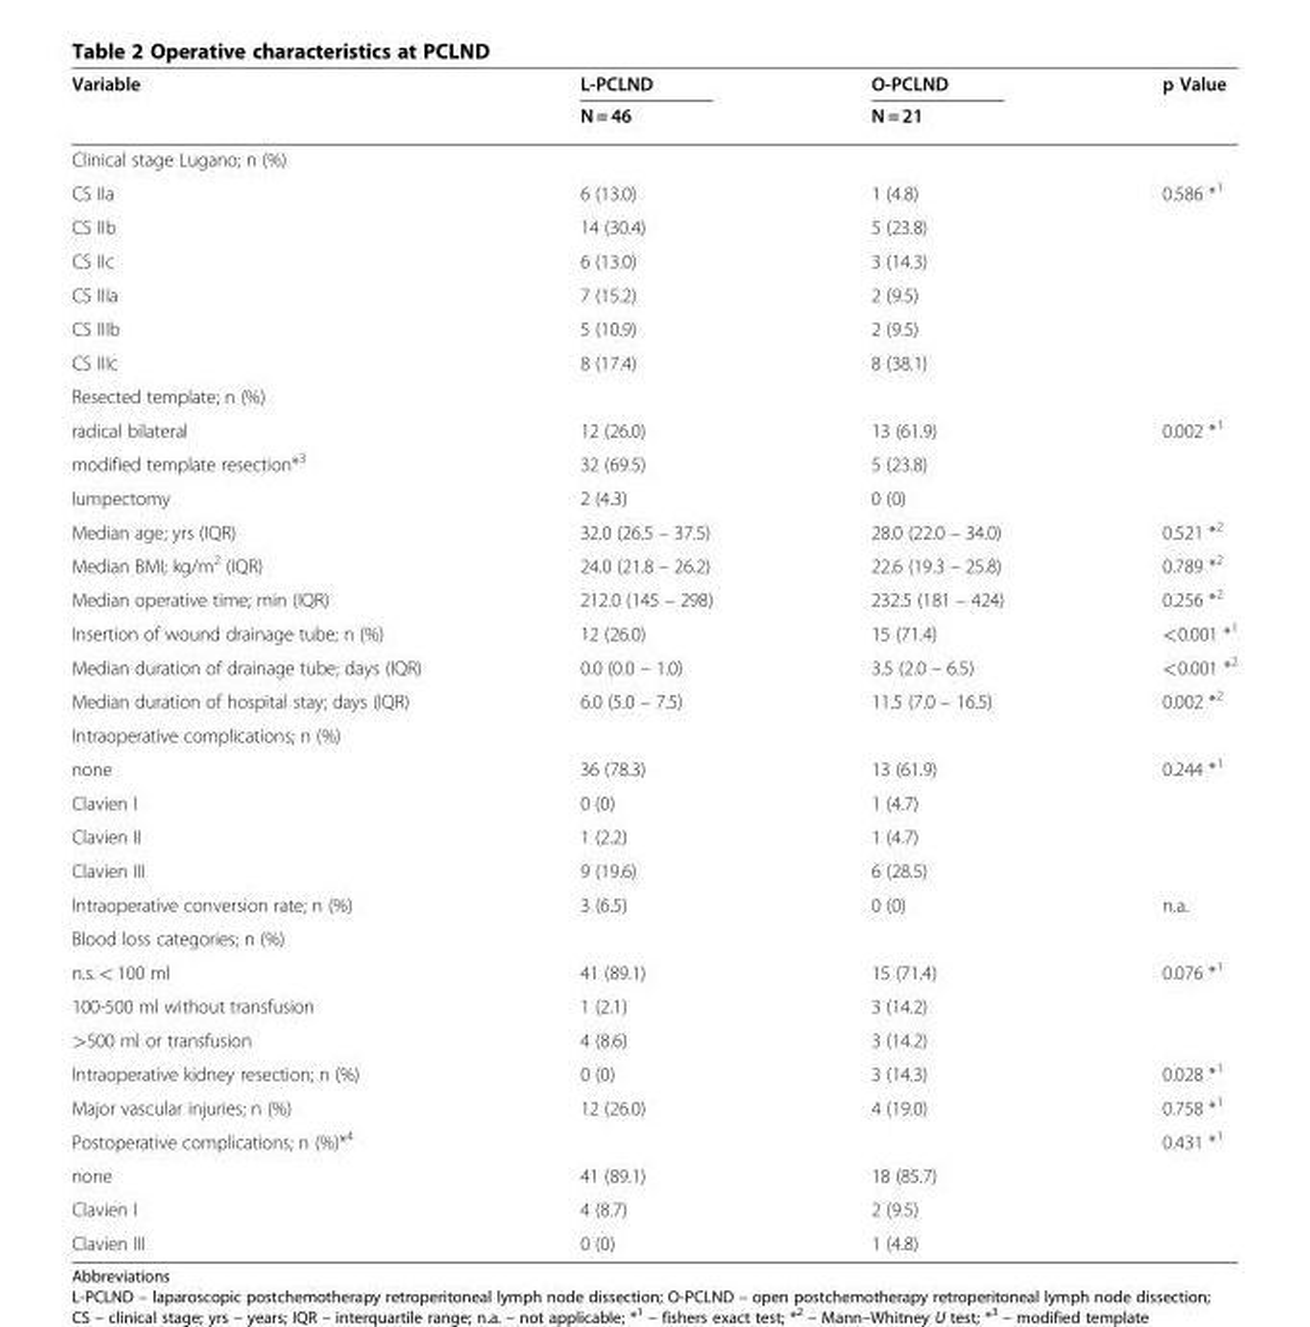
<table><thead><tr><td rowspan="2">Variable</td><td rowspan="2">L-PCLND N = 46</td><td rowspan="2">O-PCLND N = 21</td><td rowspan="2">p Value</td></tr><tr></tr></thead><tbody><tr><td colspan="4">Clinical stage Lugano; n (%)</td></tr><tr><td>CS IIa</td><td>6 (13.0)</td><td>1 (4.8)</td><td>0.586 *<sup>1</sup></td></tr><tr><td>CS IIb</td><td>14 (30.4)</td><td colspan="2">5 (23.8)</td></tr><tr><td>CS IIc</td><td>6 (13.0)</td><td colspan="2">3 (14.3)</td></tr><tr><td>CS IIIa</td><td>7 (15.2)</td><td colspan="2">2 (9.5)</td></tr><tr><td>CS IIIb</td><td>5 (10.9)</td><td colspan="2">2 (9.5)</td></tr><tr><td>CS IIIc</td><td>8 (17.4)</td><td colspan="2">8 (38.1)</td></tr><tr><td colspan="4">Resected template; n (%)</td></tr><tr><td>radical bilateral</td><td>12 (26.0)</td><td>13 (61.9)</td><td>0.002 *<sup>1</sup></td></tr><tr><td>modified template resection*<sup>3</sup></td><td>32 (69.5)</td><td colspan="2">5 (23.8)</td></tr><tr><td>lumpectomy</td><td>2 (4.3)</td><td colspan="2">0 (0)</td></tr><tr><td>Median age; yrs (IQR)</td><td>32.0 (26.5 – 37.5)</td><td>28.0 (22.0 – 34.0)</td><td>0.521 *<sup>2</sup></td></tr><tr><td>Median BMI; kg/m<sup>2</sup> (IQR)</td><td>24.0 (21.8 – 26.2)</td><td>22.6 (19.3 – 25.8)</td><td>0.789 *<sup>2</sup></td></tr><tr><td>Median operative time; min (IQR)</td><td>212.0 (145 – 298)</td><td>232.5 (181 – 424)</td><td>0.256 *<sup>2</sup></td></tr><tr><td>Insertion of wound drainage tube; n (%)</td><td>12 (26.0)</td><td>15 (71.4)</td><td>&lt;0.001 *<sup>1</sup></td></tr><tr><td>Median duration of drainage tube; days (IQR)</td><td>0.0 (0.0 – 1.0)</td><td>3.5 (2.0 – 6.5)</td><td>&lt;0.001 *<sup>2</sup></td></tr><tr><td>Median duration of hospital stay; days (IQR)</td><td>6.0 (5.0 – 7.5)</td><td>11.5 (7.0 – 16.5)</td><td>0.002 *<sup>2</sup></td></tr><tr><td colspan="4">Intraoperative complications; n (%)</td></tr><tr><td>none</td><td>36 (78.3)</td><td>13 (61.9)</td><td>0.244 *<sup>1</sup></td></tr><tr><td>Clavien I</td><td>0 (0)</td><td colspan="2">1 (4.7)</td></tr><tr><td>Clavien II</td><td>1 (2.2)</td><td colspan="2">1 (4.7)</td></tr><tr><td>Clavien III</td><td>9 (19.6)</td><td colspan="2">6 (28.5)</td></tr><tr><td>Intraoperative conversion rate; n (%)</td><td>3 (6.5)</td><td>0 (0)</td><td>n.a.</td></tr><tr><td colspan="4">Blood loss categories; n (%)</td></tr><tr><td>n.s. &lt; 100 ml</td><td>41 (89.1)</td><td>15 (71.4)</td><td>0.076 *<sup>1</sup></td></tr><tr><td>100-500 ml without transfusion</td><td>1 (2.1)</td><td colspan="2">3 (14.2)</td></tr><tr><td>&gt;500 ml or transfusion</td><td>4 (8.6)</td><td colspan="2">3 (14.2)</td></tr><tr><td>Intraoperative kidney resection; n (%)</td><td>0 (0)</td><td>3 (14.3)</td><td>0.028 *<sup>1</sup></td></tr><tr><td>Major vascular injuries; n (%)</td><td>12 (26.0)</td><td>4 (19.0)</td><td>0.758 *<sup>1</sup></td></tr><tr><td>Postoperative complications; n (%)*<sup>4</sup></td><td></td><td></td><td>0.431 *<sup>1</sup></td></tr><tr><td>none</td><td>41 (89.1)</td><td colspan="2">18 (85.7)</td></tr><tr><td>Clavien I</td><td>4 (8.7)</td><td colspan="2">2 (9.5)</td></tr><tr><td>Clavien III</td><td>0 (0)</td><td>1 (4.8)</td><td></td></tr></tbody></table>